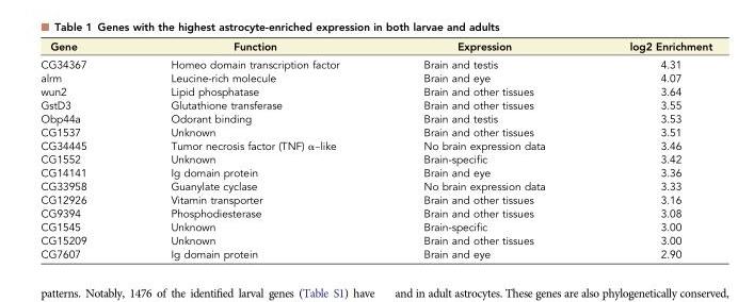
<table><thead><tr><td>Gene</td><td>Function</td><td>Expression</td><td>log2 Enrichment</td></tr></thead><tbody><tr><td>CG34367</td><td>Homeo domain transcription factor</td><td>Brain and testis</td><td>4.31</td></tr><tr><td>alrm</td><td>Leucine-rich molecule</td><td>Brain and eye</td><td>4.07</td></tr><tr><td>wun2</td><td>Lipid phosphatase</td><td>Brain and other tissues</td><td>3.64</td></tr><tr><td>GstD3</td><td>Glutathione transferase</td><td>Brain and other tissues</td><td>3.55</td></tr><tr><td>Obp44a</td><td>Odorant binding</td><td>Brain and testis</td><td>3.53</td></tr><tr><td>CG1537</td><td>Unknown</td><td>Brain and other tissues</td><td>3.51</td></tr><tr><td>CG34445</td><td>Tumor necrosis factor (TNF) α–like</td><td>No brain expression data</td><td>3.46</td></tr><tr><td>CG1552</td><td>Unknown</td><td>Brain-specific</td><td>3.42</td></tr><tr><td>CG14141</td><td>Ig domain protein</td><td>Brain and eye</td><td>3.36</td></tr><tr><td>CG33958</td><td>Guanylate cyclase</td><td>No brain expression data</td><td>3.33</td></tr><tr><td>CG12926</td><td>Vitamin transporter</td><td>Brain and other tissues</td><td>3.16</td></tr><tr><td>CG9394</td><td>Phosphodiesterase</td><td>Brain and other tissues</td><td>3.08</td></tr><tr><td>CG1545</td><td>Unknown</td><td>Brain-specific</td><td>3.00</td></tr><tr><td>CG15209</td><td>Unknown</td><td>Brain and other tissues</td><td>3.00</td></tr><tr><td>CG7607</td><td>Ig domain protein</td><td>Brain and eye</td><td>2.90</td></tr></tbody></table>